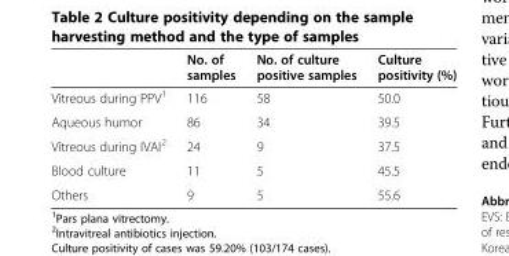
<table><thead><tr><td></td><td>No. of samples</td><td>No. of culture positive samples</td><td>Culture positivity (%)</td></tr></thead><tbody><tr><td>Vitreous during PPV<sup>1</sup></td><td>116</td><td>58</td><td>50.0</td></tr><tr><td>Aqueous humor</td><td>86</td><td>34</td><td>39.5</td></tr><tr><td>Vitreous during IVAI<sup>2</sup></td><td>24</td><td>9</td><td>37.5</td></tr><tr><td>Blood culture</td><td>11</td><td>5</td><td>45.5</td></tr><tr><td>Others</td><td>9</td><td>5</td><td>55.6</td></tr></tbody></table>